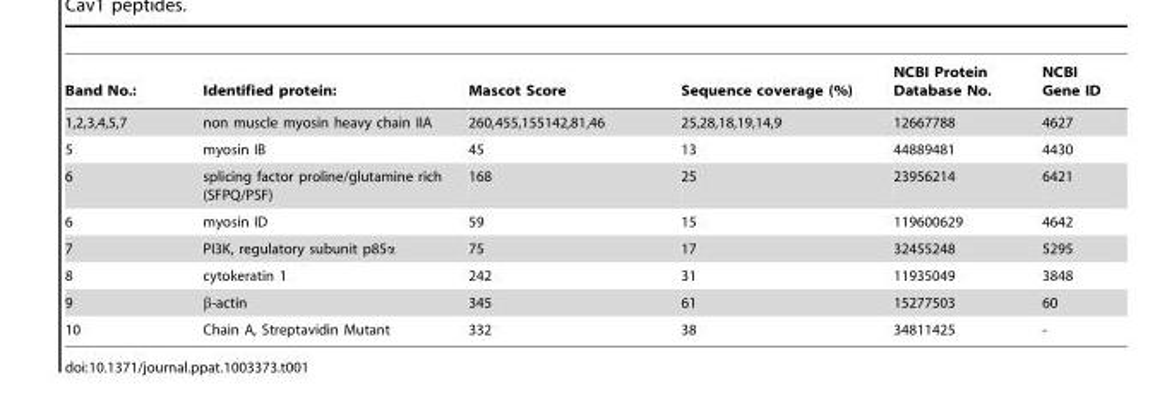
<table><thead><tr><td>Band No.:</td><td>Identified protein:</td><td>Mascot Score</td><td>Sequence coverage (%)</td><td>NCBI Protein Database No.</td><td>NCBI Gene ID</td></tr></thead><tbody><tr><td>1,2,3,4,5,7</td><td>non muscle myosin heavy chain IIA</td><td>260,455,155142,81,46</td><td>25,28,18,19,14,9</td><td>12667788</td><td>4627</td></tr><tr><td>5</td><td>myosin IB</td><td>45</td><td>13</td><td>44889481</td><td>4430</td></tr><tr><td>6</td><td>splicing factor proline/glutamine rich (SFPQ/PSF)</td><td>168</td><td>25</td><td>23956214</td><td>6421</td></tr><tr><td>6</td><td>myosin ID</td><td>59</td><td>15</td><td>119600629</td><td>4642</td></tr><tr><td>7</td><td>PI3K, regulatory subunit p85α</td><td>75</td><td>17</td><td>32455248</td><td>5295</td></tr><tr><td>8</td><td>cytokeratin 1</td><td>242</td><td>31</td><td>11935049</td><td>3848</td></tr><tr><td>9</td><td>β-actin</td><td>345</td><td>61</td><td>15277503</td><td>60</td></tr><tr><td>10</td><td>Chain A, Streptavidin Mutant</td><td>332</td><td>38</td><td>34811425</td><td>-</td></tr></tbody></table>